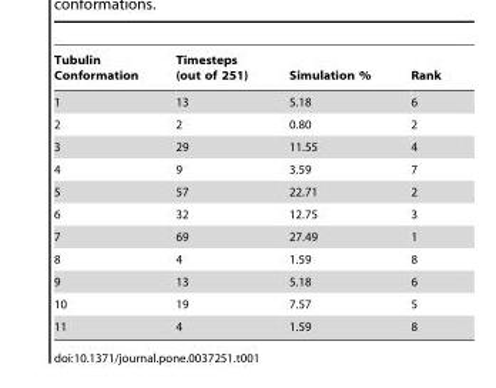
<table><thead><tr><td>Tubulin Conformation</td><td>Timesteps (out of 251)</td><td>Simulation %</td><td>Rank</td></tr></thead><tbody><tr><td>1</td><td>13</td><td>5.18</td><td>6</td></tr><tr><td>2</td><td>2</td><td>0.80</td><td>2</td></tr><tr><td>3</td><td>29</td><td>11.55</td><td>4</td></tr><tr><td>4</td><td>9</td><td>3.59</td><td>7</td></tr><tr><td>5</td><td>57</td><td>22.71</td><td>2</td></tr><tr><td>6</td><td>32</td><td>12.75</td><td>3</td></tr><tr><td>7</td><td>69</td><td>27.49</td><td>1</td></tr><tr><td>8</td><td>4</td><td>1.59</td><td>8</td></tr><tr><td>9</td><td>13</td><td>5.18</td><td>6</td></tr><tr><td>10</td><td>19</td><td>7.57</td><td>5</td></tr><tr><td>11</td><td>4</td><td>1.59</td><td>8</td></tr></tbody></table>